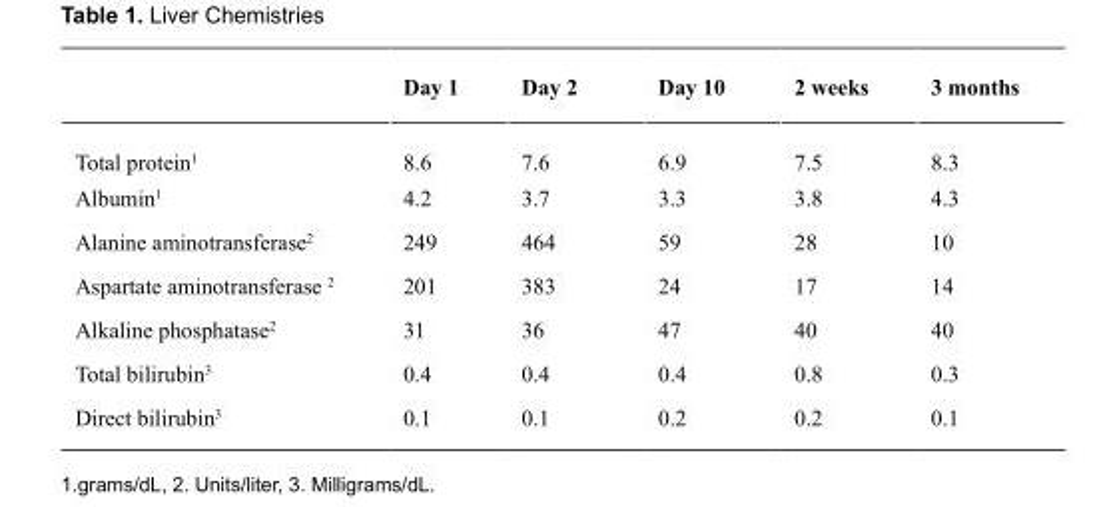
<table><thead><tr><td></td><td>Day 1</td><td>Day 2</td><td>Day 10</td><td>2 weeks</td><td>3 months</td></tr></thead><tbody><tr><td>Total protein<sup>1</sup></td><td>8.6</td><td>7.6</td><td>6.9</td><td>7.5</td><td>8.3</td></tr><tr><td>Albumin<sup>1</sup></td><td>4.2</td><td>3.7</td><td>3.3</td><td>3.8</td><td>4.3</td></tr><tr><td>Alanine aminotransferase<sup>2</sup></td><td>249</td><td>464</td><td>59</td><td>28</td><td>10</td></tr><tr><td>Aspartate aminotransferase <sup>2</sup></td><td>201</td><td>383</td><td>24</td><td>17</td><td>14</td></tr><tr><td>Alkaline phosphatase<sup>2</sup></td><td>31</td><td>36</td><td>47</td><td>40</td><td>40</td></tr><tr><td>Total bilirubin<sup>3</sup></td><td>0.4</td><td>0.4</td><td>0.4</td><td>0.8</td><td>0.3</td></tr><tr><td>Direct bilirubin<sup>3</sup></td><td>0.1</td><td>0.1</td><td>0.2</td><td>0.2</td><td>0.1</td></tr></tbody></table>